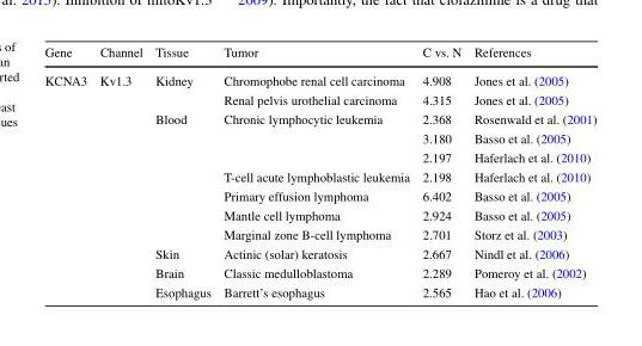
<table><thead><tr><td>Gene</td><td>Channel</td><td>Tissue</td><td>Tumor</td><td>C vs. N</td><td>References</td></tr></thead><tbody><tr><td rowspan="12">KCNA3</td><td rowspan="12">Kv1.3</td><td rowspan="2">Kidney</td><td>Chromophobe renal cell carcinoma</td><td>4.908</td><td>Jones et al. (2005)</td></tr><tr><td>Renal pelvis urothelial carcinoma</td><td>4.315</td><td>Jones et al. (2005)</td></tr><tr><td rowspan="7">Blood</td><td rowspan="3">Chronic lymphocytic leukemia</td><td>2.368</td><td>Rosenwald et al. (2001)</td></tr><tr><td>3.180</td><td>Basso et al. (2005)</td></tr><tr><td>2.197</td><td>Haferlach et al. (2010)</td></tr><tr><td>T-cell acute lymphoblastic leukemia</td><td>2.198</td><td>Haferlach et al. (2010)</td></tr><tr><td>Primary effusion lymphoma</td><td>6.402</td><td>Basso et al. (2005)</td></tr><tr><td>Mantle cell lymphoma</td><td>2.924</td><td>Basso et al. (2005)</td></tr><tr><td>Marginal zone B-cell lymphoma</td><td>2.701</td><td>Storz et al. (2003)</td></tr><tr><td>Skin</td><td>Actinic (solar) keratosis</td><td>2.667</td><td>Nindl et al. (2006)</td></tr><tr><td>Brain</td><td>Classic medulloblastoma</td><td>2.289</td><td>Pomeroy et al. (2002)</td></tr><tr><td>Esophagus</td><td>Barrett’s esophagus</td><td>2.565</td><td>Hao et al. (2006)</td></tr></tbody></table>